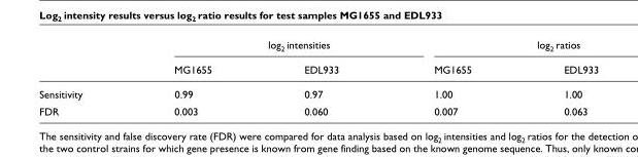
<table><thead><tr><td rowspan="2"></td><td colspan="2">log<sub>2</sub> intensities</td><td colspan="2">log<sub>2</sub> ratios</td></tr><tr><td>MG1655</td><td>EDL933</td><td>MG1655</td><td>EDL933</td></tr></thead><tbody><tr><td>Sensitivity</td><td>0.99</td><td>0.97</td><td>1.00</td><td>1.00</td></tr><tr><td>FDR</td><td>0.003</td><td>0.060</td><td>0.007</td><td>0.063</td></tr></tbody></table>